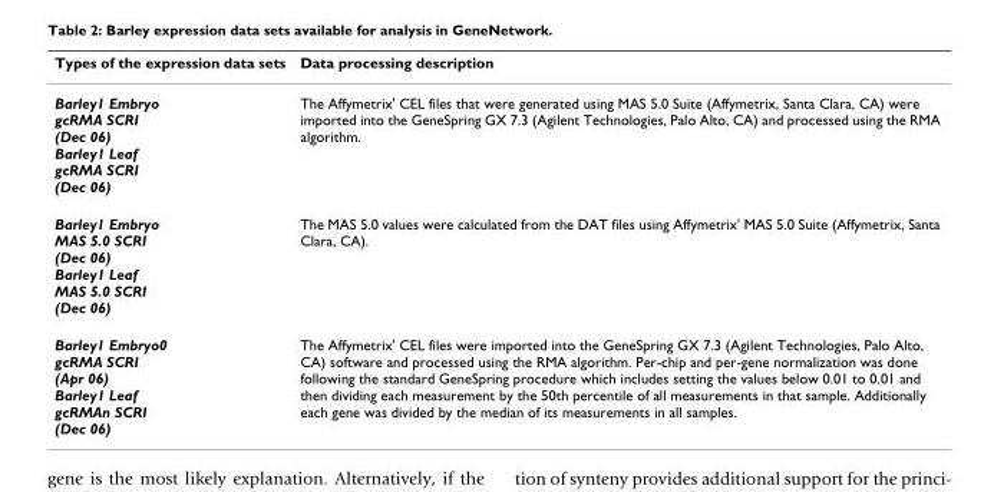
<table><thead><tr><td>Types of the expression data sets</td><td>Data processing description</td></tr></thead><tbody><tr><td>Barley1 Embryo gcRMA SCRI (Dec 06) Barley1 Leaf gcRMA SCRI (Dec 06)</td><td>The Affymetrix&#x27; CEL files that were generated using MAS 5.0 Suite (Affymetrix, Santa Clara, CA) were imported into the GeneSpring GX 7.3 (Agilent Technologies, Palo Alto, CA) and processed using the RMA algorithm.</td></tr><tr><td>Barley1 Embryo MAS 5.0 SCRI (Dec 06) Barley1 Leaf MAS 5.0 SCRI (Dec 06)</td><td>The MAS 5.0 values were calculated from the DAT files using Affymetrix&#x27; MAS 5.0 Suite (Affymetrix, Santa Clara, CA).</td></tr><tr><td>Barley1 Embryo0 gcRMA SCRI (Apr 06) Barley1 Leaf gcRMAn SCRI (Dec 06)</td><td>The Affymetrix&#x27; CEL files were imported into the GeneSpring GX 7.3 (Agilent Technologies, Palo Alto, CA) software and processed using the RMA algorithm. Per-chip and per-gene normalization was done following the standard GeneSpring procedure which includes setting the values below 0.01 to 0.01 and then dividing each measurement by the 50th percentile of all measurements in that sample. Additionally each gene was divided by the median of its measurements in all samples.</td></tr></tbody></table>